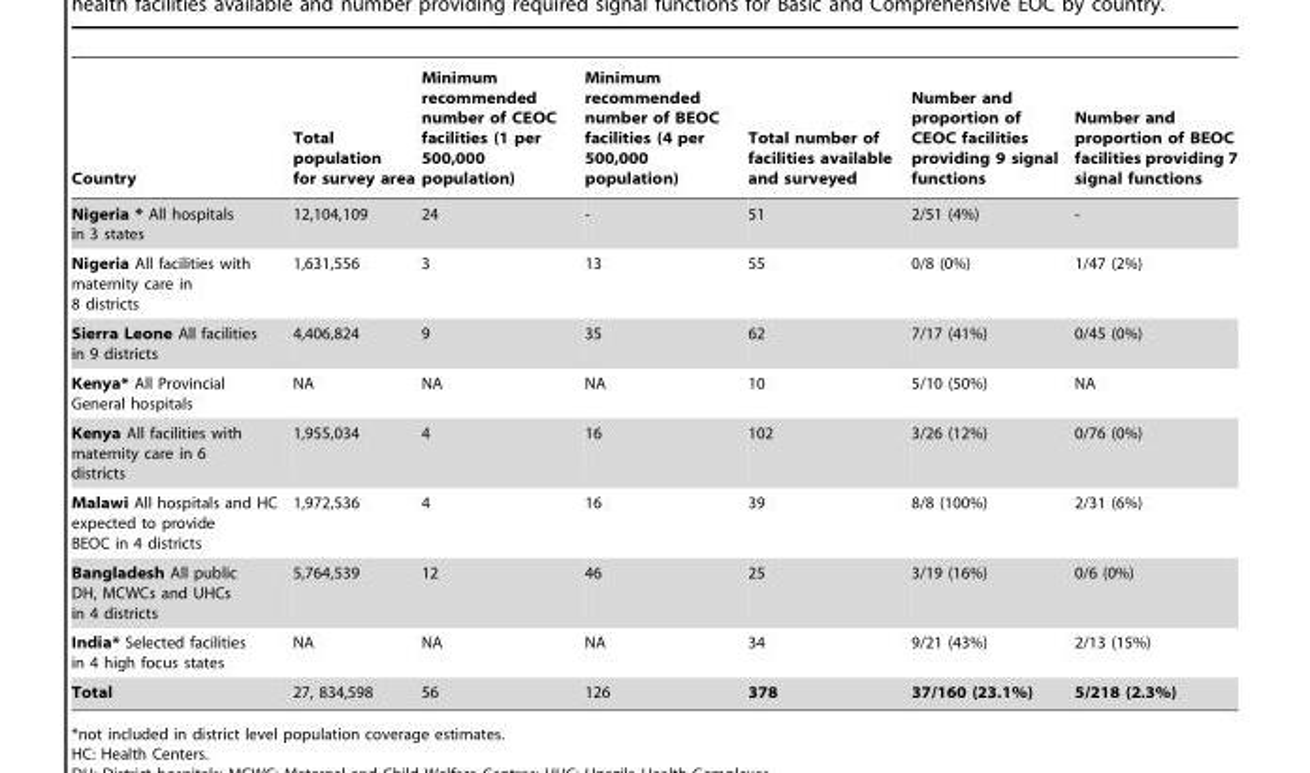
<table><thead><tr><td>Country</td><td>Total population for survey area</td><td>Minimum recommended number of CEOC facilities (1 per 500,000 population)</td><td>Minimum recommended number of BEOC facilities (4 per 500,000 population)</td><td>Total number of facilities available and surveyed</td><td>Number and proportion of CEOC facilities providing 9 signal functions</td><td>Number and proportion of BEOC facilities providing 7 signal functions</td></tr></thead><tbody><tr><td>Nigeria * All hospitals in 3 states</td><td>12,104,109</td><td>24</td><td>-</td><td>51</td><td>2/51 (4%)</td><td>-</td></tr><tr><td>Nigeria All facilities with maternity care in 8 districts</td><td>1,631,556</td><td>3</td><td>13</td><td>55</td><td>0/8 (0%)</td><td>1/47 (2%)</td></tr><tr><td>Sierra Leone All facilities in 9 districts</td><td>4,406,824</td><td>9</td><td>35</td><td>62</td><td>7/17 (41%)</td><td>0/45 (0%)</td></tr><tr><td>Kenya* All Provincial General hospitals</td><td>NA</td><td>NA</td><td>NA</td><td>10</td><td>5/10 (50%)</td><td>NA</td></tr><tr><td>Kenya All facilities with maternity care in 6 districts</td><td>1,955,034</td><td>4</td><td>16</td><td>102</td><td>3/26 (12%)</td><td>0/76 (0%)</td></tr><tr><td>Malawi All hospitals and HC expected to provide BEOC in 4 districts</td><td>1,972,536</td><td>4</td><td>16</td><td>39</td><td>8/8 (100%)</td><td>2/31 (6%)</td></tr><tr><td>Bangladesh All public DH, MCWCs and UHCs in 4 districts</td><td>5,764,539</td><td>12</td><td>46</td><td>25</td><td>3/19 (16%)</td><td>0/6 (0%)</td></tr><tr><td>India* Selected facilities in 4 high focus states</td><td>NA</td><td>NA</td><td>NA</td><td>34</td><td>9/21 (43%)</td><td>2/13 (15%)</td></tr><tr><td>Total</td><td>27, 834,598</td><td>56</td><td>126</td><td>378</td><td>37/160 (23.1%)</td><td>5/218 (2.3%)</td></tr></tbody></table>